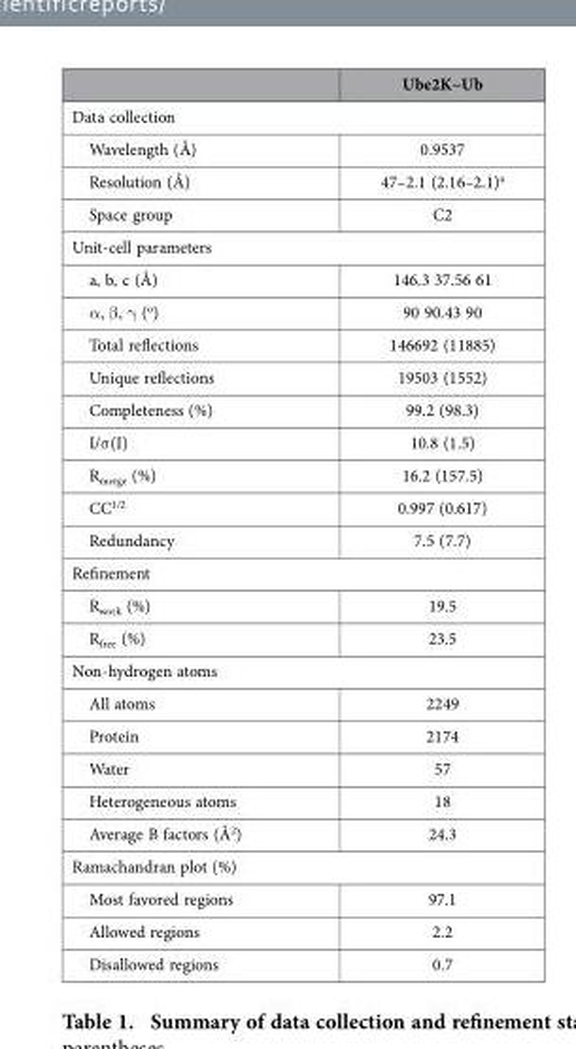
<table><thead><tr><td></td><td>Ube2K~Ub</td></tr></thead><tbody><tr><td colspan="2">Data collection</td></tr><tr><td>Wavelength (Å)</td><td>0.9537</td></tr><tr><td>Resolution (Å)</td><td>47–2.1 (2.16–2.1)<sup>a</sup></td></tr><tr><td>Space group</td><td>C2</td></tr><tr><td colspan="2">Unit-cell parameters</td></tr><tr><td>a, b, c (Å)</td><td>146.3 37.56 61</td></tr><tr><td>α , β , γ (<sup>o</sup>)</td><td>90 90.43 90</td></tr><tr><td>Total reflections</td><td>146692 (11885)</td></tr><tr><td>Unique reflections</td><td>19503 (1552)</td></tr><tr><td>Completeness (%)</td><td>99.2 (98.3)</td></tr><tr><td>I/σ (I)</td><td>10.8 (1.5)</td></tr><tr><td>R<sub>merge</sub> (%)</td><td>16.2 (157.5)</td></tr><tr><td>CC<sup>1/2</sup></td><td>0.997 (0.617)</td></tr><tr><td>Redundancy</td><td>7.5 (7.7)</td></tr><tr><td colspan="2">Refinement</td></tr><tr><td>R<sub>work</sub> (%)</td><td>19.5</td></tr><tr><td>R<sub>free</sub> (%)</td><td>23.5</td></tr><tr><td colspan="2">Non-hydrogen atoms</td></tr><tr><td>All atoms</td><td>2249</td></tr><tr><td>Protein</td><td>2174</td></tr><tr><td>Water</td><td>57</td></tr><tr><td>Heterogeneous atoms</td><td>18</td></tr><tr><td>Average B factors (Å<sup>2</sup>)</td><td>24.3</td></tr><tr><td colspan="2">Ramachandran plot (%)</td></tr><tr><td>Most favored regions</td><td>97.1</td></tr><tr><td>Allowed regions</td><td>2.2</td></tr><tr><td>Disallowed regions</td><td>0.7</td></tr></tbody></table>